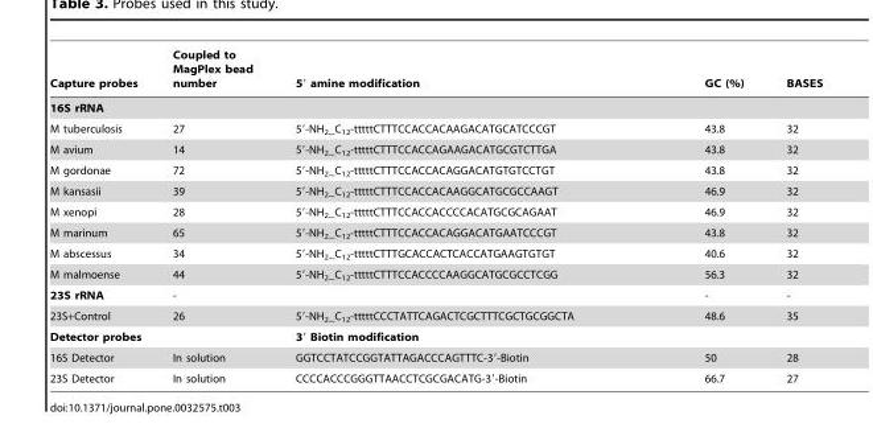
<table><thead><tr><td>Capture probes</td><td>Coupled to MagPlex bead number</td><td>5′ amine modification</td><td>GC (%)</td><td>BASES</td></tr></thead><tbody><tr><td colspan="5">16S rRNA</td></tr><tr><td>M tuberculosis</td><td>27</td><td>5′-NH2_C12-tttttCTTTCCACCACAAGACATGCATCCCGT</td><td>43.8</td><td>32</td></tr><tr><td>M avium</td><td>14</td><td>5′-NH2_C12-tttttCTTTCCACCAGAAGACATGCGTCTTGA</td><td>43.8</td><td>32</td></tr><tr><td>M gordonae</td><td>72</td><td>5′-NH2_C12-tttttCTTTCCACCACAGGACATGTGTCCTGT</td><td>43.8</td><td>32</td></tr><tr><td>M kansasii</td><td>39</td><td>5′-NH2_C12-tttttCTTTCCACCACAAGGCATGCGCCAAGT</td><td>46.9</td><td>32</td></tr><tr><td>M xenopi</td><td>28</td><td>5′-NH2_C12-tttttCTTTCCACCACCCCACATGCGCAGAAT</td><td>46.9</td><td>32</td></tr><tr><td>M marinum</td><td>65</td><td>5′-NH2_C12-tttttCTTTCCACCACAGGACATGAATCCCGT</td><td>43.8</td><td>32</td></tr><tr><td>M abscessus</td><td>34</td><td>5′-NH2_C12-tttttCTTTGCACCACTCACCATGAAGTGTGT</td><td>40.6</td><td>32</td></tr><tr><td>M malmoense</td><td>44</td><td>5′-NH2_C12-tttttCTTTCCACCCCAAGGCATGCGCCTCGG</td><td>56.3</td><td>32</td></tr><tr><td>23S rRNA</td><td>-</td><td></td><td>-</td><td>-</td></tr><tr><td>23S+Control</td><td>26</td><td>5′-NH2_C12-tttttCCCTATTCAGACTCGCTTTCGCTGCGGCTA</td><td>48.6</td><td>35</td></tr><tr><td colspan="2">Detector probes</td><td colspan="3">3′ Biotin modification</td></tr><tr><td>16S Detector</td><td>In solution</td><td>GGTCCTATCCGGTATTAGACCCAGTTTC-3′-Biotin</td><td>50</td><td>28</td></tr><tr><td>23S Detector</td><td>In solution</td><td>CCCCACCCGGGTTAACCTCGCGACATG-3′-Biotin</td><td>66.7</td><td>27</td></tr></tbody></table>